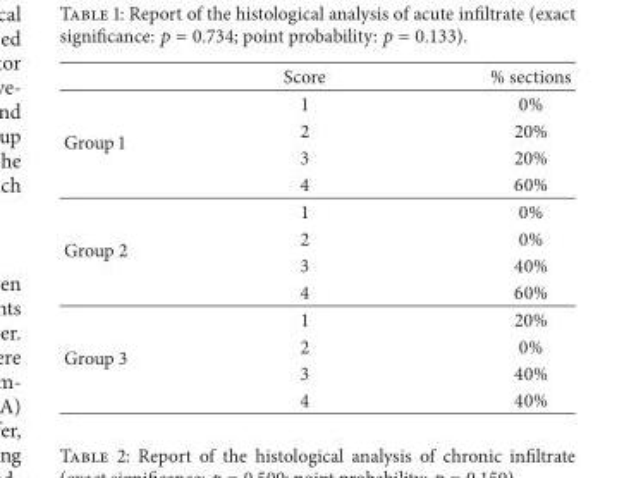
<table><thead><tr><td></td><td>Score</td><td>% sections</td></tr></thead><tbody><tr><td rowspan="4">Group 1</td><td>1</td><td>0%</td></tr><tr><td>2</td><td>20%</td></tr><tr><td>3</td><td>20%</td></tr><tr><td>4</td><td>60%</td></tr><tr><td rowspan="4">Group 2</td><td>1</td><td>0%</td></tr><tr><td>2</td><td>0%</td></tr><tr><td>3</td><td>40%</td></tr><tr><td>4</td><td>60%</td></tr><tr><td rowspan="4">Group 3</td><td>1</td><td>20%</td></tr><tr><td>2</td><td>0%</td></tr><tr><td>3</td><td>40%</td></tr><tr><td>4</td><td>40%</td></tr></tbody></table>